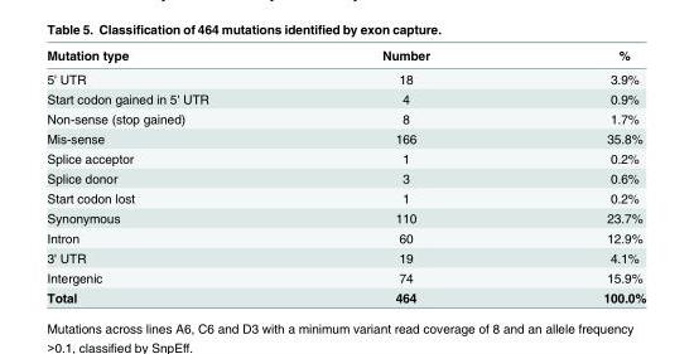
<table><thead><tr><td>Mutation type</td><td>Number</td><td>%</td></tr></thead><tbody><tr><td>5&#x27; UTR</td><td>18</td><td>3.9%</td></tr><tr><td>Start codon gained in 5&#x27; UTR</td><td>4</td><td>0.9%</td></tr><tr><td>Non-sense (stop gained)</td><td>8</td><td>1.7%</td></tr><tr><td>Mis-sense</td><td>166</td><td>35.8%</td></tr><tr><td>Splice acceptor</td><td>1</td><td>0.2%</td></tr><tr><td>Splice donor</td><td>3</td><td>0.6%</td></tr><tr><td>Start codon lost</td><td>1</td><td>0.2%</td></tr><tr><td>Synonymous</td><td>110</td><td>23.7%</td></tr><tr><td>Intron</td><td>60</td><td>12.9%</td></tr><tr><td>3&#x27; UTR</td><td>19</td><td>4.1%</td></tr><tr><td>Intergenic</td><td>74</td><td>15.9%</td></tr><tr><td>Total</td><td>464</td><td>100.0%</td></tr></tbody></table>